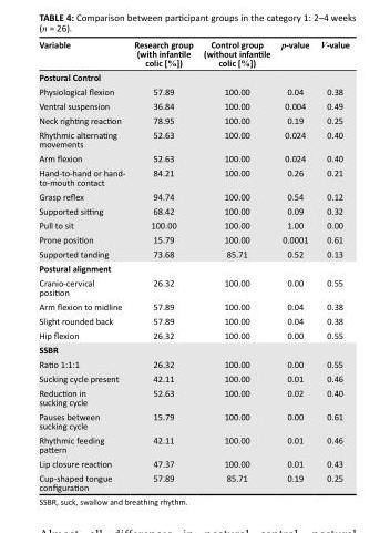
<table><thead><tr><td>Variable</td><td>Research group (with infantile colic [%])</td><td>Control group (without infantile colic [%])</td><td>p-value</td><td>V-value</td></tr></thead><tbody><tr><td colspan="5">Postural Control</td></tr><tr><td>Physiological flexion</td><td>57.89</td><td>100.00</td><td>0.04</td><td>0.38</td></tr><tr><td>Ventral suspension</td><td>36.84</td><td>100.00</td><td>0.004</td><td>0.49</td></tr><tr><td>Neck righting reaction</td><td>78.95</td><td>100.00</td><td>0.19</td><td>0.25</td></tr><tr><td>Rhythmic alternating movements</td><td>52.63</td><td>100.00</td><td>0.024</td><td>0.40</td></tr><tr><td>Arm flexion</td><td>52.63</td><td>100.00</td><td>0.024</td><td>0.40</td></tr><tr><td>Hand-to-hand or hand- to-mouth contact</td><td>84.21</td><td>100.00</td><td>0.26</td><td>0.21</td></tr><tr><td>Grasp reflex</td><td>94.74</td><td>100.00</td><td>0.54</td><td>0.12</td></tr><tr><td>Supported sitting</td><td>68.42</td><td>100.00</td><td>0.09</td><td>0.32</td></tr><tr><td>Pull to sit</td><td>100.00</td><td>100.00</td><td>1.00</td><td>0.00</td></tr><tr><td>Prone position</td><td>15.79</td><td>100.00</td><td>0.0001</td><td>0.61</td></tr><tr><td>Supported tanding</td><td>73.68</td><td>85.71</td><td>0.52</td><td>0.13</td></tr><tr><td colspan="5">Postural alignment</td></tr><tr><td>Cranio-cervical position</td><td>26.32</td><td>100.00</td><td>0.00</td><td>0.55</td></tr><tr><td>Arm flexion to midline</td><td>57.89</td><td>100.00</td><td>0.04</td><td>0.38</td></tr><tr><td>Slight rounded back</td><td>57.89</td><td>100.00</td><td>0.04</td><td>0.38</td></tr><tr><td>Hip flexion</td><td>26.32</td><td>100.00</td><td>0.00</td><td>0.55</td></tr><tr><td colspan="5">SSBR</td></tr><tr><td>Ratio 1:1:1</td><td>26.32</td><td>100.00</td><td>0.00</td><td>0.55</td></tr><tr><td>Sucking cycle present</td><td>42.11</td><td>100.00</td><td>0.01</td><td>0.46</td></tr><tr><td>Reduction in sucking cycle</td><td>52.63</td><td>100.00</td><td>0.02</td><td>0.40</td></tr><tr><td>Pauses between sucking cycle</td><td>15.79</td><td>100.00</td><td>0.00</td><td>0.61</td></tr><tr><td>Rhythmic feeding pattern</td><td>42.11</td><td>100.00</td><td>0.01</td><td>0.46</td></tr><tr><td>Lip closure reaction</td><td>47.37</td><td>100.00</td><td>0.01</td><td>0.43</td></tr><tr><td>Cup-shaped tongue configuration</td><td>57.89</td><td>85.71</td><td>0.19</td><td>0.25</td></tr></tbody></table>